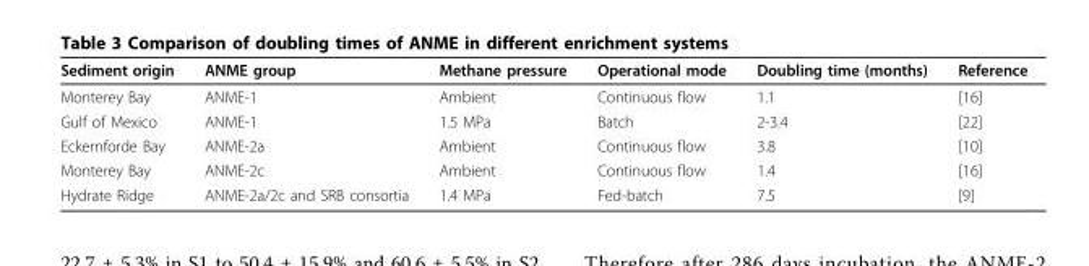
<table><thead><tr><td>Sediment origin</td><td>ANME group</td><td>Methane pressure</td><td>Operational mode</td><td>Doubling time (months)</td><td>Reference</td></tr></thead><tbody><tr><td>Monterey Bay</td><td>ANME-1</td><td>Ambient</td><td>Continuous flow</td><td>1.1</td><td>[16]</td></tr><tr><td>Gulf of Mexico</td><td>ANME-1</td><td>1.5 MPa</td><td>Batch</td><td>2-3.4</td><td>[22]</td></tr><tr><td>Eckernforde Bay</td><td>ANME-2a</td><td>Ambient</td><td>Continuous flow</td><td>3.8</td><td>[10]</td></tr><tr><td>Monterey Bay</td><td>ANME-2c</td><td>Ambient</td><td>Continuous flow</td><td>1.4</td><td>[16]</td></tr><tr><td>Hydrate Ridge</td><td>ANME-2a/2c and SRB consortia</td><td>1.4 MPa</td><td>Fed-batch</td><td>7.5</td><td>[9]</td></tr></tbody></table>